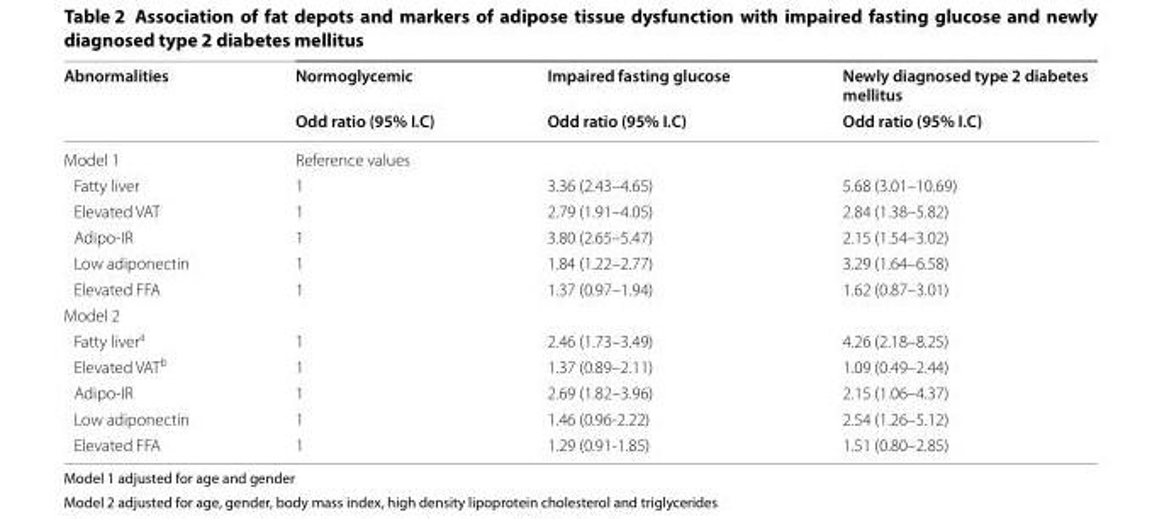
<table><thead><tr><td rowspan="2">Abnormalities</td><td rowspan="2">Normoglycemic Odd ratio (95% I.C)</td><td rowspan="2">Impaired fasting glucose Odd ratio (95% I.C)</td><td rowspan="2">Newly diagnosed type 2 diabetes mellitus Odd ratio (95% I.C)</td></tr><tr></tr></thead><tbody><tr><td>Model 1</td><td>Reference values</td><td></td><td></td></tr><tr><td>Fatty liver</td><td>1</td><td>3.36 (2.43–4.65)</td><td>5.68 (3.01–10.69)</td></tr><tr><td>Elevated VAT</td><td>1</td><td>2.79 (1.91–4.05)</td><td>2.84 (1.38–5.82)</td></tr><tr><td>Adipo‑IR</td><td>1</td><td>3.80 (2.65–5.47)</td><td>2.15 (1.54–3.02)</td></tr><tr><td>Low adiponectin</td><td>1</td><td>1.84 (1.22–2.77)</td><td>3.29 (1.64–6.58)</td></tr><tr><td>Elevated FFA</td><td>1</td><td>1.37 (0.97–1.94)</td><td>1.62 (0.87–3.01)</td></tr><tr><td colspan="4">Model 2</td></tr><tr><td>Fatty liver<sup>a</sup></td><td>1</td><td>2.46 (1.73–3.49)</td><td>4.26 (2.18–8.25)</td></tr><tr><td>Elevated VAT<sup>b</sup></td><td>1</td><td>1.37 (0.89–2.11)</td><td>1.09 (0.49–2.44)</td></tr><tr><td>Adipo‑IR</td><td>1</td><td>2.69 (1.82–3.96)</td><td>2.15 (1.06–4.37)</td></tr><tr><td>Low adiponectin</td><td>1</td><td>1.46 (0.96‑2.22)</td><td>2.54 (1.26–5.12)</td></tr><tr><td>Elevated FFA</td><td>1</td><td>1.29 (0.91‑1.85)</td><td>1.51 (0.80–2.85)</td></tr></tbody></table>